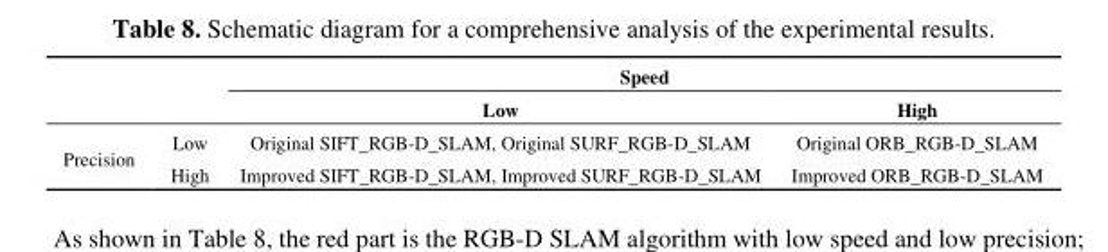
<table><thead><tr><td rowspan="2"></td><td rowspan="2"></td><td colspan="2">Speed</td></tr><tr><td>Low</td><td>High</td></tr></thead><tbody><tr><td rowspan="2">Precision</td><td>Low</td><td>Original SIFT_RGB-D_SLAM, Original SURF_RGB-D_SLAM</td><td>Original ORB_RGB-D_SLAM</td></tr><tr><td>High</td><td>Improved SIFT_RGB-D_SLAM, Improved SURF_RGB-D_SLAM</td><td>Improved ORB_RGB-D_SLAM</td></tr></tbody></table>